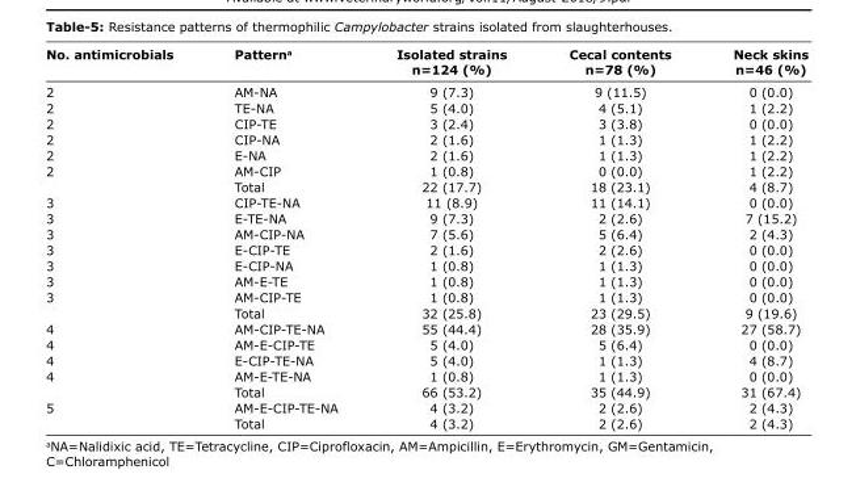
<table><thead><tr><td>No. antimicrobials</td><td>Pattern<sup>a</sup></td><td>Isolated strains n=124 (%)</td><td>Cecal contents n=78 (%)</td><td>Neck skins n=46 (%)</td></tr></thead><tbody><tr><td>2</td><td>AM-NA</td><td>9 (7.3)</td><td>9 (11.5)</td><td>0 (0.0)</td></tr><tr><td>2</td><td>TE-NA</td><td>5 (4.0)</td><td>4 (5.1)</td><td>1 (2.2)</td></tr><tr><td>2</td><td>CIP-TE</td><td>3 (2.4)</td><td>3 (3.8)</td><td>0 (0.0)</td></tr><tr><td>2</td><td>CIP-NA</td><td>2 (1.6)</td><td>1 (1.3)</td><td>1 (2.2)</td></tr><tr><td>2</td><td>E-NA</td><td>2 (1.6)</td><td>1 (1.3)</td><td>1 (2.2)</td></tr><tr><td rowspan="2">2</td><td>AM-CIP</td><td>1 (0.8)</td><td>0 (0.0)</td><td>1 (2.2)</td></tr><tr><td>Total</td><td>22 (17.7)</td><td>18 (23.1)</td><td>4 (8.7)</td></tr><tr><td>3</td><td>CIP-TE-NA</td><td>11 (8.9)</td><td>11 (14.1)</td><td>0 (0.0)</td></tr><tr><td>3</td><td>E-TE-NA</td><td>9 (7.3)</td><td>2 (2.6)</td><td>7 (15.2)</td></tr><tr><td>3</td><td>AM-CIP-NA</td><td>7 (5.6)</td><td>5 (6.4)</td><td>2 (4.3)</td></tr><tr><td>3</td><td>E-CIP-TE</td><td>2 (1.6)</td><td>2 (2.6)</td><td>0 (0.0)</td></tr><tr><td>3</td><td>E-CIP-NA</td><td>1 (0.8)</td><td>1 (1.3)</td><td>0 (0.0)</td></tr><tr><td>3</td><td>AM-E-TE</td><td>1 (0.8)</td><td>1 (1.3)</td><td>0 (0.0)</td></tr><tr><td rowspan="2">3</td><td>AM-CIP-TE</td><td>1 (0.8)</td><td>1 (1.3)</td><td>0 (0.0)</td></tr><tr><td>Total</td><td>32 (25.8)</td><td>23 (29.5)</td><td>9 (19.6)</td></tr><tr><td>4</td><td>AM-CIP-TE-NA</td><td>55 (44.4)</td><td>28 (35.9)</td><td>27 (58.7)</td></tr><tr><td>4</td><td>AM-E-CIP-TE</td><td>5 (4.0)</td><td>5 (6.4)</td><td>0 (0.0)</td></tr><tr><td>4</td><td>E-CIP-TE-NA</td><td>5 (4.0)</td><td>1 (1.3)</td><td>4 (8.7)</td></tr><tr><td rowspan="2">4</td><td>AM-E-TE-NA</td><td>1 (0.8)</td><td>1 (1.3)</td><td>0 (0.0)</td></tr><tr><td>Total</td><td>66 (53.2)</td><td>35 (44.9)</td><td>31 (67.4)</td></tr><tr><td rowspan="2">5</td><td>AM-E-CIP-TE-NA</td><td>4 (3.2)</td><td>2 (2.6)</td><td>2 (4.3)</td></tr><tr><td>Total</td><td>4 (3.2)</td><td>2 (2.6)</td><td>2 (4.3)</td></tr></tbody></table>